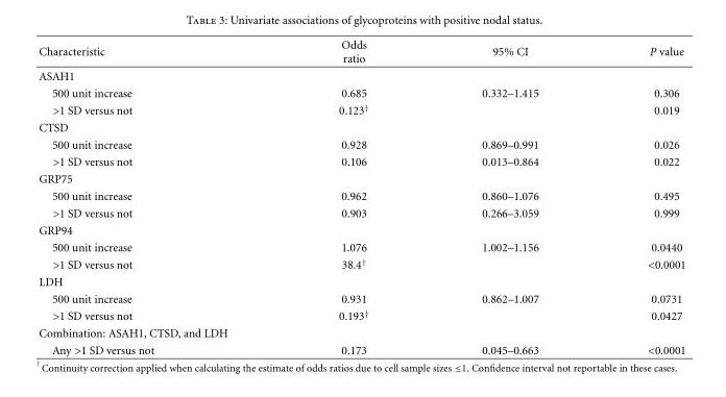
<table><thead><tr><td>Characteristic</td><td>Odds ratio</td><td>95% CI</td><td>P value</td></tr></thead><tbody><tr><td colspan="4">ASAH1</td></tr><tr><td>500 unit increase</td><td>0.685</td><td>0.332–1.415</td><td>0.306</td></tr><tr><td>&gt;1 SD versus not</td><td>0.123<sup>†</sup></td><td></td><td>0.019</td></tr><tr><td colspan="4">CTSD</td></tr><tr><td>500 unit increase</td><td>0.928</td><td>0.869–0.991</td><td>0.026</td></tr><tr><td>&gt;1 SD versus not</td><td>0.106</td><td>0.013–0.864</td><td>0.022</td></tr><tr><td colspan="4">GRP75</td></tr><tr><td>500 unit increase</td><td>0.962</td><td>0.860–1.076</td><td>0.495</td></tr><tr><td>&gt;1 SD versus not</td><td>0.903</td><td>0.266–3.059</td><td>0.999</td></tr><tr><td colspan="4">GRP94</td></tr><tr><td>500 unit increase</td><td>1.076</td><td>1.002–1.156</td><td>0.0440</td></tr><tr><td>&gt;1 SD versus not</td><td>38.4<sup>†</sup></td><td></td><td>&lt;0.0001</td></tr><tr><td colspan="4">LDH</td></tr><tr><td>500 unit increase</td><td>0.931</td><td>0.862–1.007</td><td>0.0731</td></tr><tr><td>&gt;1 SD versus not</td><td>0.193<sup>†</sup></td><td></td><td>0.0427</td></tr><tr><td colspan="4">Combination: ASAH1, CTSD, and LDH</td></tr><tr><td>Any &gt;1 SD versus not</td><td>0.173</td><td>0.045–0.663</td><td>&lt;0.0001</td></tr></tbody></table>